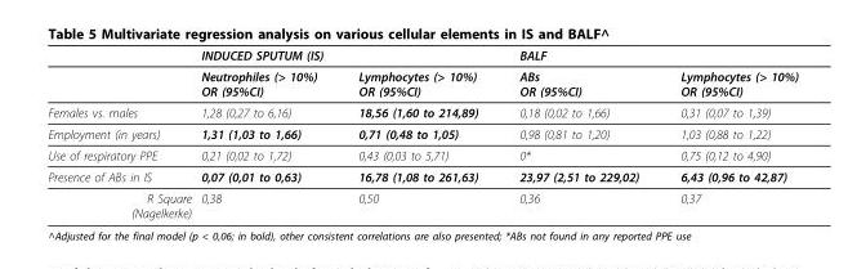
<table><thead><tr><td rowspan="2"></td><td colspan="2">INDUCED SPUTUM (IS)</td><td colspan="2">BALF</td></tr><tr><td>Neutrophiles (&gt; 10%) OR (95%CI)</td><td>Lymphocytes (&gt; 10%) OR (95%CI)</td><td>ABs OR (95%CI)</td><td>Lymphocytes (&gt; 10%) OR (95%CI)</td></tr></thead><tbody><tr><td>Females vs. males</td><td>1,28 (0,27 to 6,16)</td><td>18,56 (1,60 to 214,89)</td><td>0,18 (0,02 to 1,66)</td><td>0,31 (0,07 to 1,39)</td></tr><tr><td>Employment (in years)</td><td>1,31 (1,03 to 1,66)</td><td>0,71 (0,48 to 1,05)</td><td>0,98 (0,81 to 1,20)</td><td>1,03 (0,88 to 1,22)</td></tr><tr><td>Use of respiratory PPE</td><td>0,21 (0,02 to 1,72)</td><td>0,43 (0,03 to 5,71)</td><td>0*</td><td>0,75 (0,12 to 4,90)</td></tr><tr><td>Presence of ABs in IS</td><td>0,07 (0,01 to 0,63)</td><td>16,78 (1,08 to 261,63)</td><td>23,97 (2,51 to 229,02)</td><td>6,43 (0,96 to 42,87)</td></tr><tr><td>R Square (Nagelkerke)</td><td>0,38</td><td>0,50</td><td>0,36</td><td>0,37</td></tr></tbody></table>